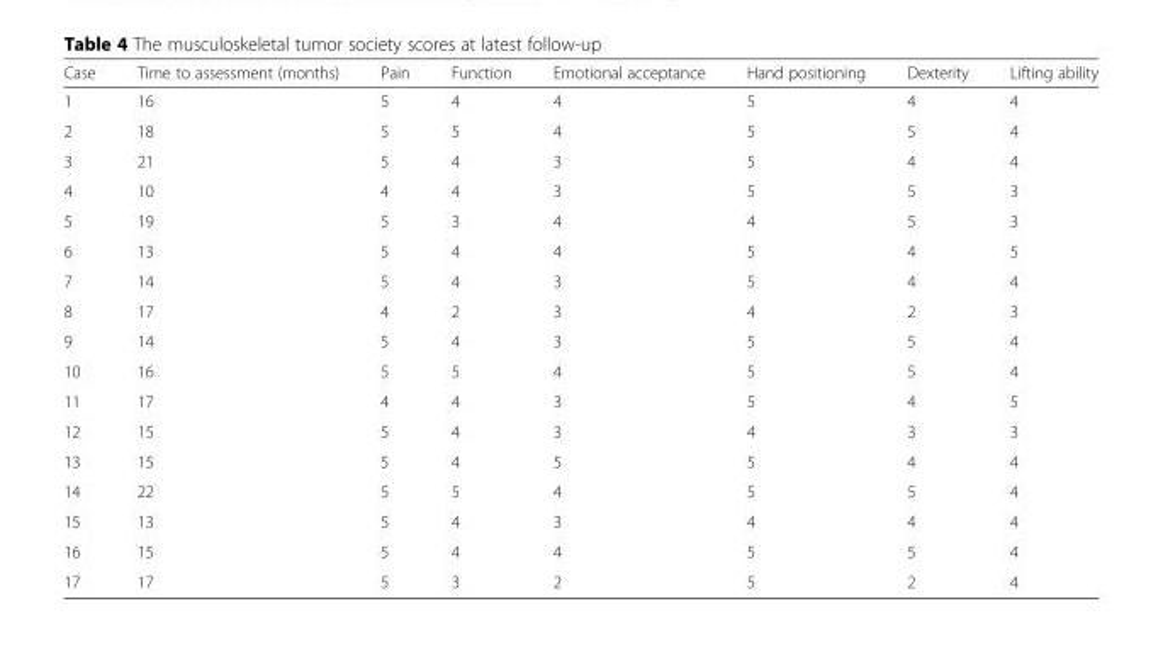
<table><thead><tr><td>Case</td><td>Time to assessment (months)</td><td>Pain</td><td>Function</td><td>Emotional acceptance</td><td>Hand positioning</td><td>Dexterity</td><td>Lifting ability</td></tr></thead><tbody><tr><td>1</td><td>16</td><td>5</td><td>4</td><td>4</td><td>5</td><td>4</td><td>4</td></tr><tr><td>2</td><td>18</td><td>5</td><td>5</td><td>4</td><td>5</td><td>5</td><td>4</td></tr><tr><td>3</td><td>21</td><td>5</td><td>4</td><td>3</td><td>5</td><td>4</td><td>4</td></tr><tr><td>4</td><td>10</td><td>4</td><td>4</td><td>3</td><td>5</td><td>5</td><td>3</td></tr><tr><td>5</td><td>19</td><td>5</td><td>3</td><td>4</td><td>4</td><td>5</td><td>3</td></tr><tr><td>6</td><td>13</td><td>5</td><td>4</td><td>4</td><td>5</td><td>4</td><td>5</td></tr><tr><td>7</td><td>14</td><td>5</td><td>4</td><td>3</td><td>5</td><td>4</td><td>4</td></tr><tr><td>8</td><td>17</td><td>4</td><td>2</td><td>3</td><td>4</td><td>2</td><td>3</td></tr><tr><td>9</td><td>14</td><td>5</td><td>4</td><td>3</td><td>5</td><td>5</td><td>4</td></tr><tr><td>10</td><td>16</td><td>5</td><td>5</td><td>4</td><td>5</td><td>5</td><td>4</td></tr><tr><td>11</td><td>17</td><td>4</td><td>4</td><td>3</td><td>5</td><td>4</td><td>5</td></tr><tr><td>12</td><td>15</td><td>5</td><td>4</td><td>3</td><td>4</td><td>3</td><td>3</td></tr><tr><td>13</td><td>15</td><td>5</td><td>4</td><td>5</td><td>5</td><td>4</td><td>4</td></tr><tr><td>14</td><td>22</td><td>5</td><td>5</td><td>4</td><td>5</td><td>5</td><td>4</td></tr><tr><td>15</td><td>13</td><td>5</td><td>4</td><td>3</td><td>4</td><td>4</td><td>4</td></tr><tr><td>16</td><td>15</td><td>5</td><td>4</td><td>4</td><td>5</td><td>5</td><td>4</td></tr><tr><td>17</td><td>17</td><td>5</td><td>3</td><td>2</td><td>5</td><td>2</td><td>4</td></tr></tbody></table>